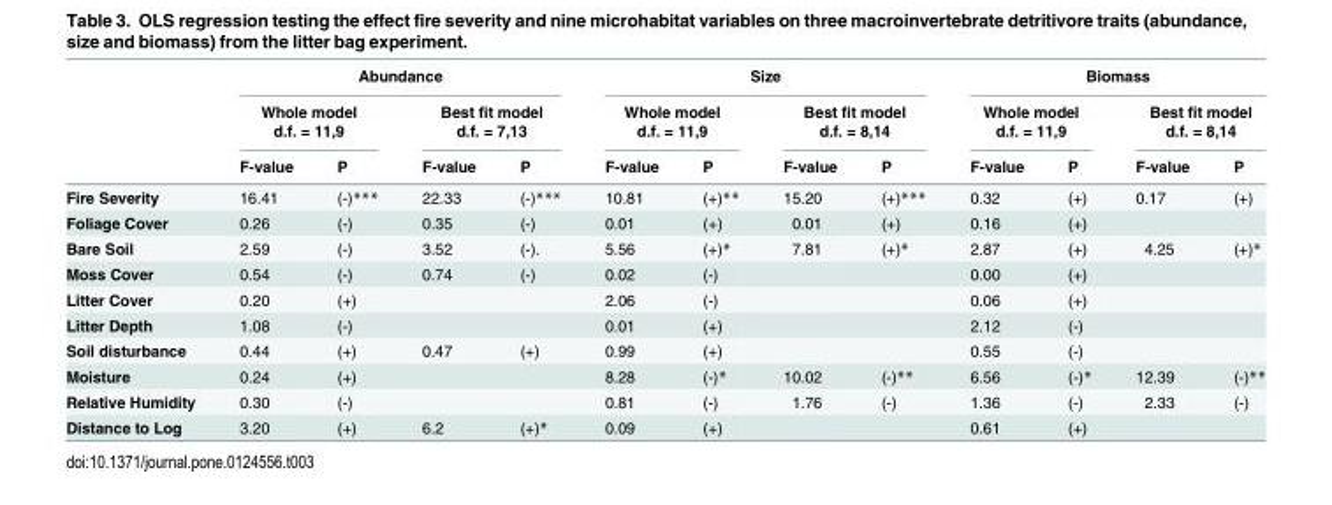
<table><thead><tr><td rowspan="3"></td><td colspan="4">Abundance</td><td colspan="4">Size</td><td colspan="4">Biomass</td></tr><tr><td colspan="2">Whole model d.f. = 11,9</td><td colspan="2">Best fit model d.f. = 7,13</td><td colspan="2">Whole model d.f. = 11,9</td><td colspan="2">Best fit model d.f. = 8,14</td><td colspan="2">Whole model d.f. = 11,9</td><td colspan="2">Best fit model d.f. = 8,14</td></tr><tr><td>F-value</td><td>P</td><td>F-value</td><td>P</td><td>F-value</td><td>P</td><td>F-value</td><td>P</td><td>F-value</td><td>P</td><td>F-value</td><td>P</td></tr></thead><tbody><tr><td>Fire Severity</td><td>16.41</td><td>(-)***</td><td>22.33</td><td>(-)***</td><td>10.81</td><td>(+)**</td><td>15.20</td><td>(+)***</td><td>0.32</td><td>(+)</td><td>0.17</td><td>(+)</td></tr><tr><td>Foliage Cover</td><td>0.26</td><td>(-)</td><td>0.35</td><td>(-)</td><td>0.01</td><td>(+)</td><td>0.01</td><td>(+)</td><td>0.16</td><td>(+)</td><td></td><td></td></tr><tr><td>Bare Soil</td><td>2.59</td><td>(-)</td><td>3.52</td><td>(-).</td><td>5.56</td><td>(+)*</td><td>7.81</td><td>(+)*</td><td>2.87</td><td>(+)</td><td>4.25</td><td>(+)*</td></tr><tr><td>Moss Cover</td><td>0.54</td><td>(-)</td><td>0.74</td><td>(-)</td><td>0.02</td><td>(-)</td><td></td><td></td><td>0.00</td><td>(+)</td><td></td><td></td></tr><tr><td>Litter Cover</td><td>0.20</td><td>(+)</td><td></td><td></td><td>2.06</td><td>(-)</td><td></td><td></td><td>0.06</td><td>(+)</td><td></td><td></td></tr><tr><td>Litter Depth</td><td>1.08</td><td>(-)</td><td></td><td></td><td>0.01</td><td>(+)</td><td></td><td></td><td>2.12</td><td>(-)</td><td></td><td></td></tr><tr><td>Soil disturbance</td><td>0.44</td><td>(+)</td><td>0.47</td><td>(+)</td><td>0.99</td><td>(+)</td><td></td><td></td><td>0.55</td><td>(-)</td><td></td><td></td></tr><tr><td>Moisture</td><td>0.24</td><td>(+)</td><td></td><td></td><td>8.28</td><td>(-)*</td><td>10.02</td><td>(-)**</td><td>6.56</td><td>(-)*</td><td>12.39</td><td>(-)**</td></tr><tr><td>Relative Humidity</td><td>0.30</td><td>(-)</td><td></td><td></td><td>0.81</td><td>(-)</td><td>1.76</td><td>(-)</td><td>1.36</td><td>(-)</td><td>2.33</td><td>(-)</td></tr><tr><td>Distance to Log</td><td>3.20</td><td>(+)</td><td>6.2</td><td>(+)*</td><td>0.09</td><td>(+)</td><td></td><td></td><td>0.61</td><td>(+)</td><td></td><td></td></tr></tbody></table>